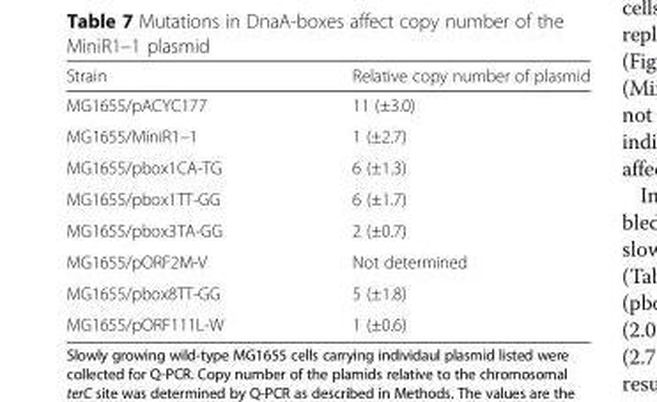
<table><thead><tr><td>Strain</td><td>Relative copy number of plasmid</td></tr></thead><tbody><tr><td>MG1655/pACYC177</td><td>11 (±3.0)</td></tr><tr><td>MG1655/MiniR1–1</td><td>1 (±2.7)</td></tr><tr><td>MG1655/pbox1CA-TG</td><td>6 (±1.3)</td></tr><tr><td>MG1655/pbox1TT-GG</td><td>6 (±1.7)</td></tr><tr><td>MG1655/pbox3TA-GG</td><td>2 (±0.7)</td></tr><tr><td>MG1655/pORF2M-V</td><td>Not determined</td></tr><tr><td>MG1655/pbox8TT-GG</td><td>5 (±1.8)</td></tr><tr><td>MG1655/pORF111L-W</td><td>1 (±0.6)</td></tr></tbody></table>